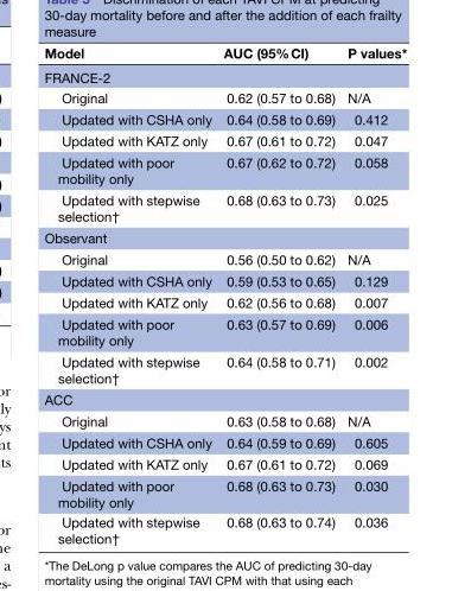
<table><thead><tr><td>Model</td><td>AUC (95% CI)</td><td>P values*</td></tr></thead><tbody><tr><td colspan="3">FRANCE-2</td></tr><tr><td>Original</td><td>0.62 (0.57 to 0.68)</td><td>N/A</td></tr><tr><td>Updated with CSHA only</td><td>0.64 (0.58 to 0.69)</td><td>0.412</td></tr><tr><td>Updated with KATZ only</td><td>0.67 (0.61 to 0.72)</td><td>0.047</td></tr><tr><td>Updated with poor mobility only</td><td>0.67 (0.62 to 0.72)</td><td>0.058</td></tr><tr><td>Updated with stepwise selection†</td><td>0.68 (0.63 to 0.73)</td><td>0.025</td></tr><tr><td colspan="3">Observant</td></tr><tr><td>Original</td><td>0.56 (0.50 to 0.62)</td><td>N/A</td></tr><tr><td>Updated with CSHA only</td><td>0.59 (0.53 to 0.65)</td><td>0.129</td></tr><tr><td>Updated with KATZ only</td><td>0.62 (0.56 to 0.68)</td><td>0.007</td></tr><tr><td>Updated with poor mobility only</td><td>0.63 (0.57 to 0.69)</td><td>0.006</td></tr><tr><td>Updated with stepwise selection†</td><td>0.64 (0.58 to 0.71)</td><td>0.002</td></tr><tr><td colspan="3">ACC</td></tr><tr><td>Original</td><td>0.63 (0.58 to 0.68)</td><td>N/A</td></tr><tr><td>Updated with CSHA only</td><td>0.64 (0.59 to 0.69)</td><td>0.605</td></tr><tr><td>Updated with KATZ only</td><td>0.67 (0.61 to 0.72)</td><td>0.069</td></tr><tr><td>Updated with poor mobility only</td><td>0.68 (0.63 to 0.73)</td><td>0.030</td></tr><tr><td>Updated with stepwise selection†</td><td>0.68 (0.63 to 0.74)</td><td>0.036</td></tr></tbody></table>